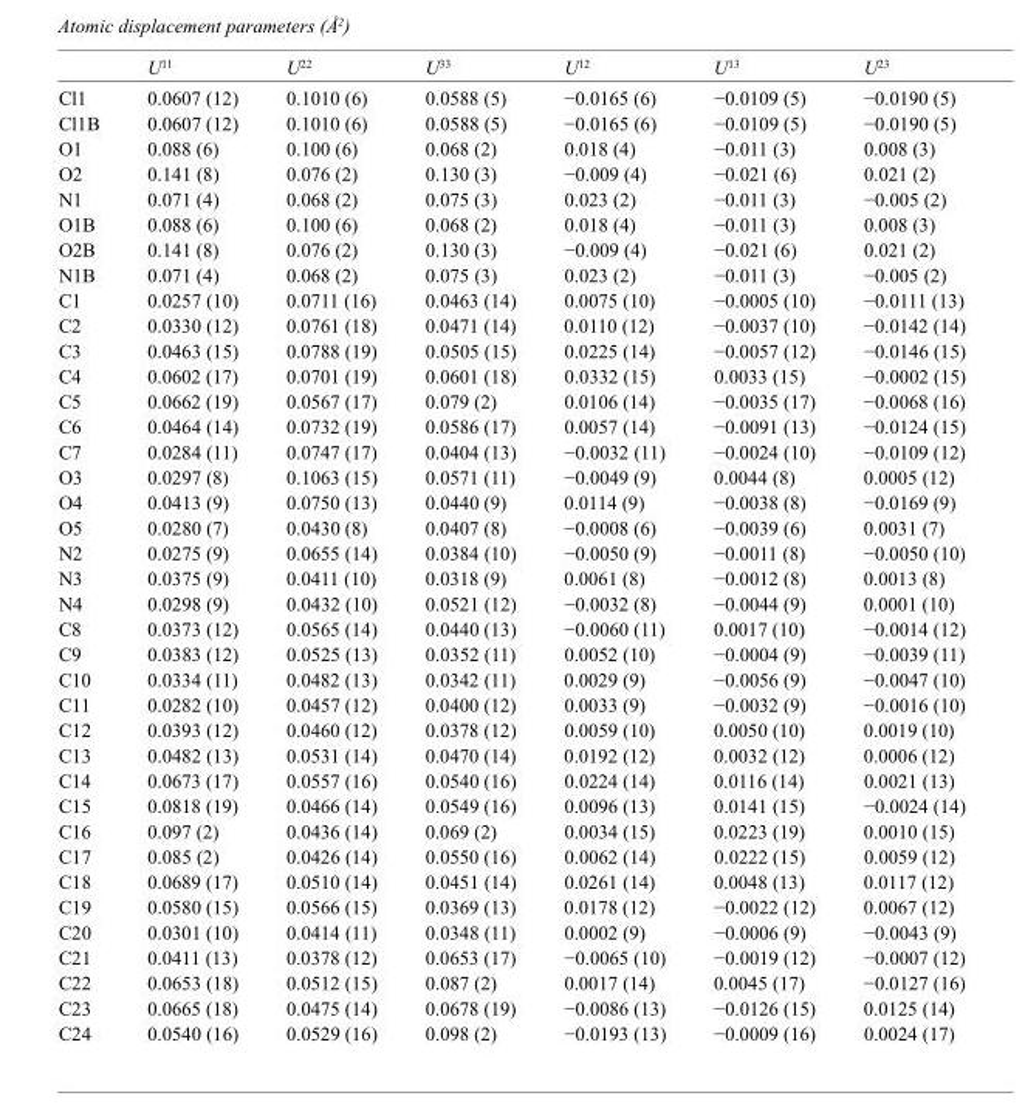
<table><thead><tr><td></td><td>U<sup>11</sup></td><td>U<sup>22</sup></td><td>U<sup>33</sup></td><td>U<sup>12</sup></td><td>U<sup>13</sup></td><td>U<sup>23</sup></td></tr></thead><tbody><tr><td>Cl1</td><td>0.0607 (12)</td><td>0.1010 (6)</td><td>0.0588 (5)</td><td>−0.0165 (6)</td><td>−0.0109 (5)</td><td>−0.0190 (5)</td></tr><tr><td>Cl1B</td><td>0.0607 (12)</td><td>0.1010 (6)</td><td>0.0588 (5)</td><td>−0.0165 (6)</td><td>−0.0109 (5)</td><td>−0.0190 (5)</td></tr><tr><td>O1</td><td>0.088 (6)</td><td>0.100 (6)</td><td>0.068 (2)</td><td>0.018 (4)</td><td>−0.011 (3)</td><td>0.008 (3)</td></tr><tr><td>O2</td><td>0.141 (8)</td><td>0.076 (2)</td><td>0.130 (3)</td><td>−0.009 (4)</td><td>−0.021 (6)</td><td>0.021 (2)</td></tr><tr><td>N1</td><td>0.071 (4)</td><td>0.068 (2)</td><td>0.075 (3)</td><td>0.023 (2)</td><td>−0.011 (3)</td><td>−0.005 (2)</td></tr><tr><td>O1B</td><td>0.088 (6)</td><td>0.100 (6)</td><td>0.068 (2)</td><td>0.018 (4)</td><td>−0.011 (3)</td><td>0.008 (3)</td></tr><tr><td>O2B</td><td>0.141 (8)</td><td>0.076 (2)</td><td>0.130 (3)</td><td>−0.009 (4)</td><td>−0.021 (6)</td><td>0.021 (2)</td></tr><tr><td>N1B</td><td>0.071 (4)</td><td>0.068 (2)</td><td>0.075 (3)</td><td>0.023 (2)</td><td>−0.011 (3)</td><td>−0.005 (2)</td></tr><tr><td>C1</td><td>0.0257 (10)</td><td>0.0711 (16)</td><td>0.0463 (14)</td><td>0.0075 (10)</td><td>−0.0005 (10)</td><td>−0.0111 (13)</td></tr><tr><td>C2</td><td>0.0330 (12)</td><td>0.0761 (18)</td><td>0.0471 (14)</td><td>0.0110 (12)</td><td>−0.0037 (10)</td><td>−0.0142 (14)</td></tr><tr><td>C3</td><td>0.0463 (15)</td><td>0.0788 (19)</td><td>0.0505 (15)</td><td>0.0225 (14)</td><td>−0.0057 (12)</td><td>−0.0146 (15)</td></tr><tr><td>C4</td><td>0.0602 (17)</td><td>0.0701 (19)</td><td>0.0601 (18)</td><td>0.0332 (15)</td><td>0.0033 (15)</td><td>−0.0002 (15)</td></tr><tr><td>C5</td><td>0.0662 (19)</td><td>0.0567 (17)</td><td>0.079 (2)</td><td>0.0106 (14)</td><td>−0.0035 (17)</td><td>−0.0068 (16)</td></tr><tr><td>C6</td><td>0.0464 (14)</td><td>0.0732 (19)</td><td>0.0586 (17)</td><td>0.0057 (14)</td><td>−0.0091 (13)</td><td>−0.0124 (15)</td></tr><tr><td>C7</td><td>0.0284 (11)</td><td>0.0747 (17)</td><td>0.0404 (13)</td><td>−0.0032 (11)</td><td>−0.0024 (10)</td><td>−0.0109 (12)</td></tr><tr><td>O3</td><td>0.0297 (8)</td><td>0.1063 (15)</td><td>0.0571 (11)</td><td>−0.0049 (9)</td><td>0.0044 (8)</td><td>0.0005 (12)</td></tr><tr><td>O4</td><td>0.0413 (9)</td><td>0.0750 (13)</td><td>0.0440 (9)</td><td>0.0114 (9)</td><td>−0.0038 (8)</td><td>−0.0169 (9)</td></tr><tr><td>O5</td><td>0.0280 (7)</td><td>0.0430 (8)</td><td>0.0407 (8)</td><td>−0.0008 (6)</td><td>−0.0039 (6)</td><td>0.0031 (7)</td></tr><tr><td>N2</td><td>0.0275 (9)</td><td>0.0655 (14)</td><td>0.0384 (10)</td><td>−0.0050 (9)</td><td>−0.0011 (8)</td><td>−0.0050 (10)</td></tr><tr><td>N3</td><td>0.0375 (9)</td><td>0.0411 (10)</td><td>0.0318 (9)</td><td>0.0061 (8)</td><td>−0.0012 (8)</td><td>0.0013 (8)</td></tr><tr><td>N4</td><td>0.0298 (9)</td><td>0.0432 (10)</td><td>0.0521 (12)</td><td>−0.0032 (8)</td><td>−0.0044 (9)</td><td>0.0001 (10)</td></tr><tr><td>C8</td><td>0.0373 (12)</td><td>0.0565 (14)</td><td>0.0440 (13)</td><td>−0.0060 (11)</td><td>0.0017 (10)</td><td>−0.0014 (12)</td></tr><tr><td>C9</td><td>0.0383 (12)</td><td>0.0525 (13)</td><td>0.0352 (11)</td><td>0.0052 (10)</td><td>−0.0004 (9)</td><td>−0.0039 (11)</td></tr><tr><td>C10</td><td>0.0334 (11)</td><td>0.0482 (13)</td><td>0.0342 (11)</td><td>0.0029 (9)</td><td>−0.0056 (9)</td><td>−0.0047 (10)</td></tr><tr><td>C11</td><td>0.0282 (10)</td><td>0.0457 (12)</td><td>0.0400 (12)</td><td>0.0033 (9)</td><td>−0.0032 (9)</td><td>−0.0016 (10)</td></tr><tr><td>C12</td><td>0.0393 (12)</td><td>0.0460 (12)</td><td>0.0378 (12)</td><td>0.0059 (10)</td><td>0.0050 (10)</td><td>0.0019 (10)</td></tr><tr><td>C13</td><td>0.0482 (13)</td><td>0.0531 (14)</td><td>0.0470 (14)</td><td>0.0192 (12)</td><td>0.0032 (12)</td><td>0.0006 (12)</td></tr><tr><td>C14</td><td>0.0673 (17)</td><td>0.0557 (16)</td><td>0.0540 (16)</td><td>0.0224 (14)</td><td>0.0116 (14)</td><td>0.0021 (13)</td></tr><tr><td>C15</td><td>0.0818 (19)</td><td>0.0466 (14)</td><td>0.0549 (16)</td><td>0.0096 (13)</td><td>0.0141 (15)</td><td>−0.0024 (14)</td></tr><tr><td>C16</td><td>0.097 (2)</td><td>0.0436 (14)</td><td>0.069 (2)</td><td>0.0034 (15)</td><td>0.0223 (19)</td><td>0.0010 (15)</td></tr><tr><td>C17</td><td>0.085 (2)</td><td>0.0426 (14)</td><td>0.0550 (16)</td><td>0.0062 (14)</td><td>0.0222 (15)</td><td>0.0059 (12)</td></tr><tr><td>C18</td><td>0.0689 (17)</td><td>0.0510 (14)</td><td>0.0451 (14)</td><td>0.0261 (14)</td><td>0.0048 (13)</td><td>0.0117 (12)</td></tr><tr><td>C19</td><td>0.0580 (15)</td><td>0.0566 (15)</td><td>0.0369 (13)</td><td>0.0178 (12)</td><td>−0.0022 (12)</td><td>0.0067 (12)</td></tr><tr><td>C20</td><td>0.0301 (10)</td><td>0.0414 (11)</td><td>0.0348 (11)</td><td>0.0002 (9)</td><td>−0.0006 (9)</td><td>−0.0043 (9)</td></tr><tr><td>C21</td><td>0.0411 (13)</td><td>0.0378 (12)</td><td>0.0653 (17)</td><td>−0.0065 (10)</td><td>−0.0019 (12)</td><td>−0.0007 (12)</td></tr><tr><td>C22</td><td>0.0653 (18)</td><td>0.0512 (15)</td><td>0.087 (2)</td><td>0.0017 (14)</td><td>0.0045 (17)</td><td>−0.0127 (16)</td></tr><tr><td>C23</td><td>0.0665 (18)</td><td>0.0475 (14)</td><td>0.0678 (19)</td><td>−0.0086 (13)</td><td>−0.0126 (15)</td><td>0.0125 (14)</td></tr><tr><td>C24</td><td>0.0540 (16)</td><td>0.0529 (16)</td><td>0.098 (2)</td><td>−0.0193 (13)</td><td>−0.0009 (16)</td><td>0.0024 (17)</td></tr></tbody></table>